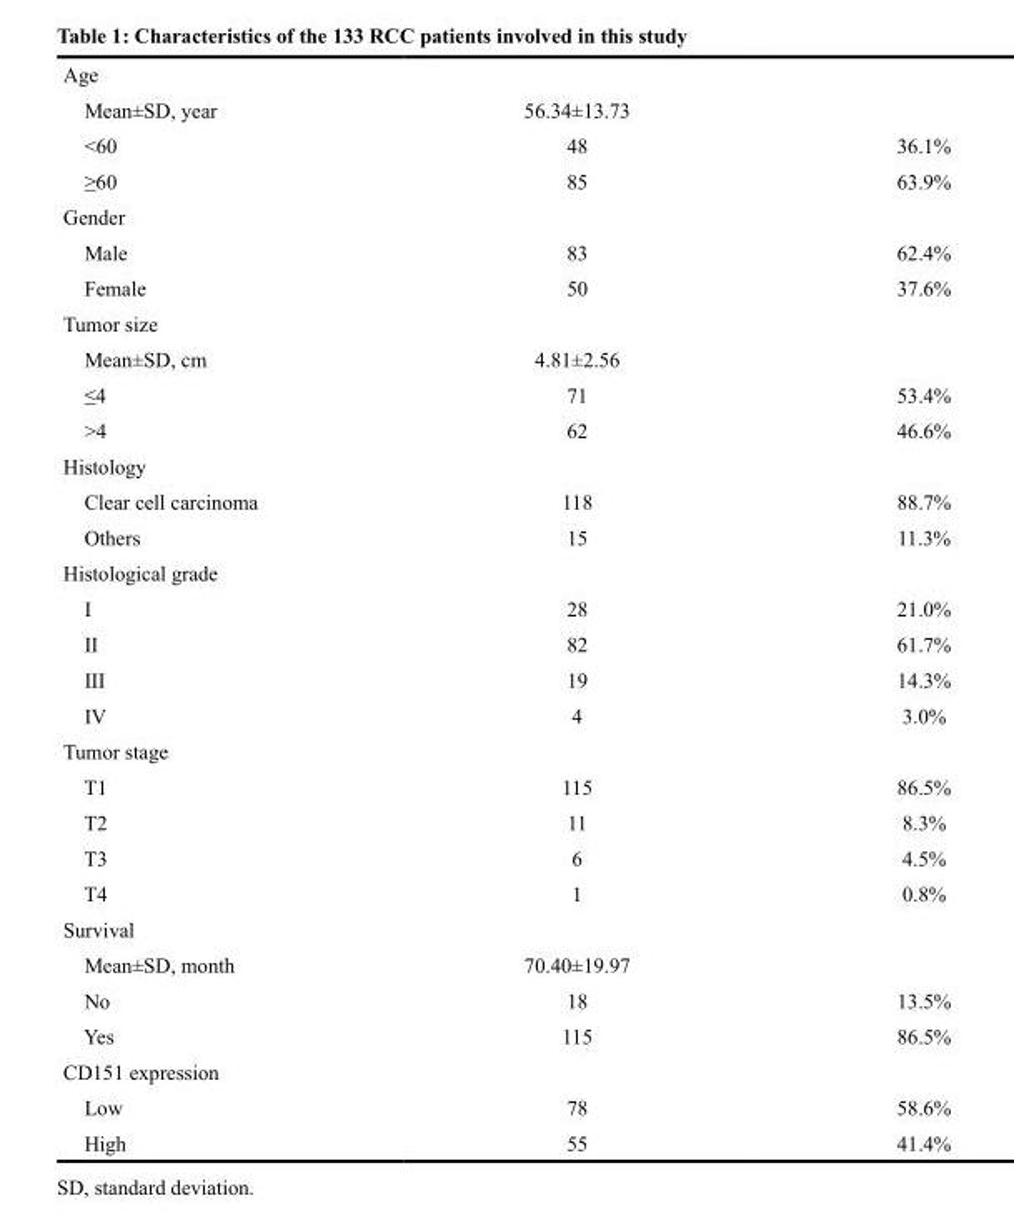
<table><tbody><tr><td colspan="3">Age</td></tr><tr><td>Mean±SD, year</td><td>56.34±13.73</td><td></td></tr><tr><td>&lt;60</td><td>48</td><td>36.1%</td></tr><tr><td>≥60</td><td>85</td><td>63.9%</td></tr><tr><td colspan="3">Gender</td></tr><tr><td>Male</td><td>83</td><td>62.4%</td></tr><tr><td>Female</td><td>50</td><td>37.6%</td></tr><tr><td colspan="3">Tumor size</td></tr><tr><td>Mean±SD, cm</td><td>4.81±2.56</td><td></td></tr><tr><td>≤4</td><td>71</td><td>53.4%</td></tr><tr><td>&gt;4</td><td>62</td><td>46.6%</td></tr><tr><td colspan="3">Histology</td></tr><tr><td>Clear cell carcinoma</td><td>118</td><td>88.7%</td></tr><tr><td>Others</td><td>15</td><td>11.3%</td></tr><tr><td colspan="3">Histological grade</td></tr><tr><td>I</td><td>28</td><td>21.0%</td></tr><tr><td>II</td><td>82</td><td>61.7%</td></tr><tr><td>III</td><td>19</td><td>14.3%</td></tr><tr><td>IV</td><td>4</td><td>3.0%</td></tr><tr><td colspan="3">Tumor stage</td></tr><tr><td>T1</td><td>115</td><td>86.5%</td></tr><tr><td>T2</td><td>11</td><td>8.3%</td></tr><tr><td>T3</td><td>6</td><td>4.5%</td></tr><tr><td>T4</td><td>1</td><td>0.8%</td></tr><tr><td colspan="3">Survival</td></tr><tr><td>Mean±SD, month</td><td>70.40±19.97</td><td></td></tr><tr><td>No</td><td>18</td><td>13.5%</td></tr><tr><td>Yes</td><td>115</td><td>86.5%</td></tr><tr><td colspan="3">CD151 expression</td></tr><tr><td>Low</td><td>78</td><td>58.6%</td></tr><tr><td>High</td><td>55</td><td>41.4%</td></tr></tbody></table>